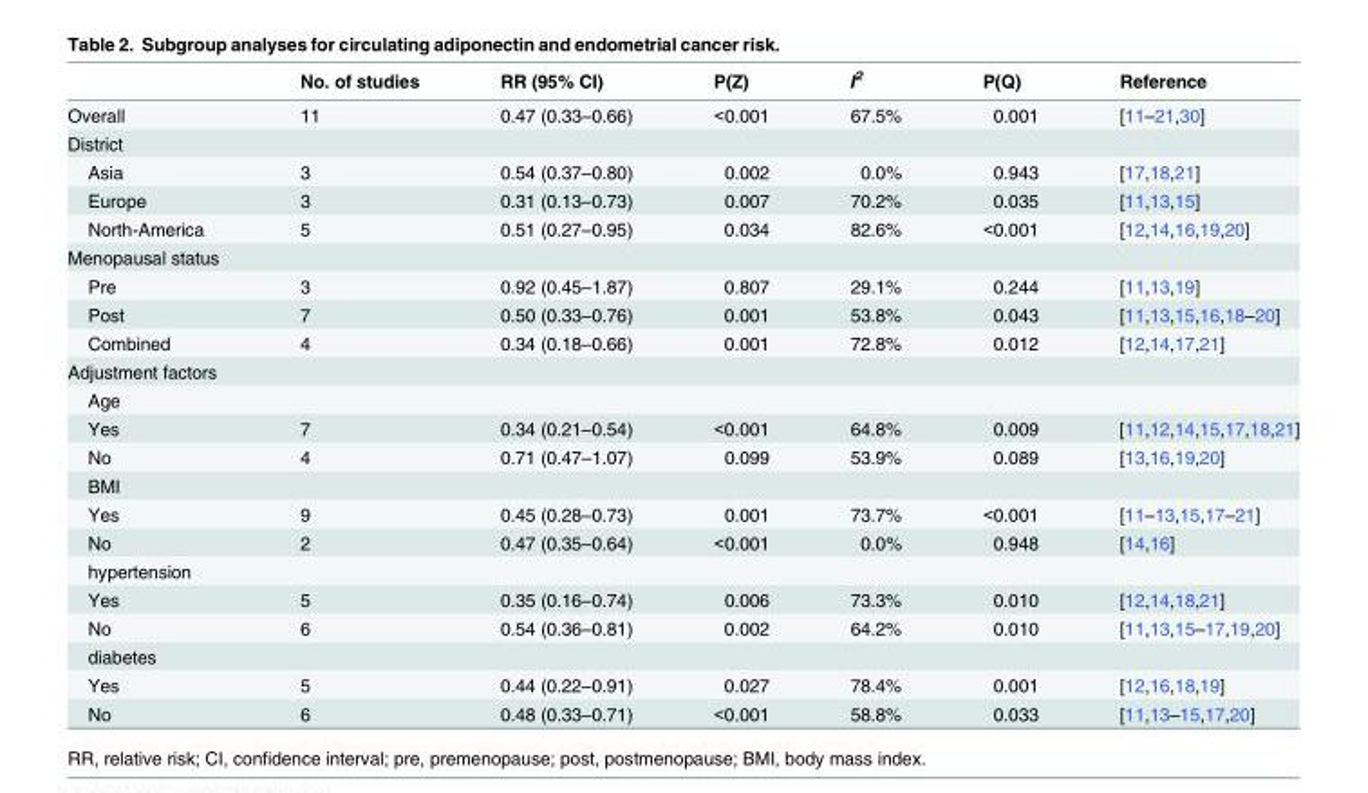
<table><thead><tr><td></td><td>No. of studies</td><td>RR (95% CI)</td><td>P(Z)</td><td>I<sup>2</sup></td><td>P(Q)</td><td>Reference</td></tr></thead><tbody><tr><td>Overall</td><td>11</td><td>0.47 (0.33–0.66)</td><td>&lt;0.001</td><td>67.5%</td><td>0.001</td><td>[11–21,30]</td></tr><tr><td colspan="7">District</td></tr><tr><td>Asia</td><td>3</td><td>0.54 (0.37–0.80)</td><td>0.002</td><td>0.0%</td><td>0.943</td><td>[17,18,21]</td></tr><tr><td>Europe</td><td>3</td><td>0.31 (0.13–0.73)</td><td>0.007</td><td>70.2%</td><td>0.035</td><td>[11,13,15]</td></tr><tr><td>North-America</td><td>5</td><td>0.51 (0.27–0.95)</td><td>0.034</td><td>82.6%</td><td>&lt;0.001</td><td>[12,14,16,19,20]</td></tr><tr><td colspan="7">Menopausal status</td></tr><tr><td>Pre</td><td>3</td><td>0.92 (0.45–1.87)</td><td>0.807</td><td>29.1%</td><td>0.244</td><td>[11,13,19]</td></tr><tr><td>Post</td><td>7</td><td>0.50 (0.33–0.76)</td><td>0.001</td><td>53.8%</td><td>0.043</td><td>[11,13,15,16,18–20]</td></tr><tr><td>Combined</td><td>4</td><td>0.34 (0.18–0.66)</td><td>0.001</td><td>72.8%</td><td>0.012</td><td>[12,14,17,21]</td></tr><tr><td colspan="7">Adjustment factors</td></tr><tr><td colspan="7">Age</td></tr><tr><td>Yes</td><td>7</td><td>0.34 (0.21–0.54)</td><td>&lt;0.001</td><td>64.8%</td><td>0.009</td><td>[11,12,14,15,17,18,21]</td></tr><tr><td>No</td><td>4</td><td>0.71 (0.47–1.07)</td><td>0.099</td><td>53.9%</td><td>0.089</td><td>[13,16,19,20]</td></tr><tr><td colspan="7">BMI</td></tr><tr><td>Yes</td><td>9</td><td>0.45 (0.28–0.73)</td><td>0.001</td><td>73.7%</td><td>&lt;0.001</td><td>[11–13,15,17–21]</td></tr><tr><td>No</td><td>2</td><td>0.47 (0.35–0.64)</td><td>&lt;0.001</td><td>0.0%</td><td>0.948</td><td>[14,16]</td></tr><tr><td colspan="7">hypertension</td></tr><tr><td>Yes</td><td>5</td><td>0.35 (0.16–0.74)</td><td>0.006</td><td>73.3%</td><td>0.010</td><td>[12,14,18,21]</td></tr><tr><td>No</td><td>6</td><td>0.54 (0.36–0.81)</td><td>0.002</td><td>64.2%</td><td>0.010</td><td>[11,13,15–17,19,20]</td></tr><tr><td colspan="7">diabetes</td></tr><tr><td>Yes</td><td>5</td><td>0.44 (0.22–0.91)</td><td>0.027</td><td>78.4%</td><td>0.001</td><td>[12,16,18,19]</td></tr><tr><td>No</td><td>6</td><td>0.48 (0.33–0.71)</td><td>&lt;0.001</td><td>58.8%</td><td>0.033</td><td>[11,13–15,17,20]</td></tr></tbody></table>